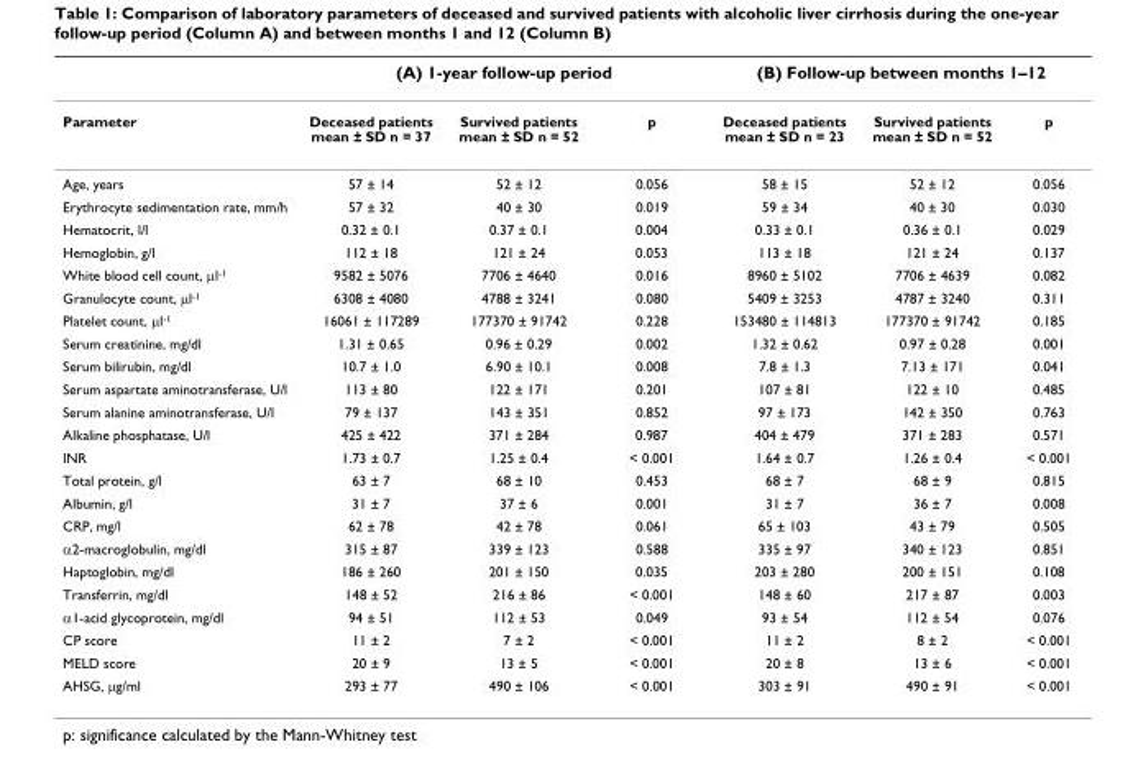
<table><thead><tr><td rowspan="2">Parameter</td><td colspan="3">(A) 1-year follow-up period</td><td colspan="3">(B) Follow-up between months 1–12</td></tr><tr><td>Deceased patients mean ± SD n = 37</td><td>Survived patients mean ± SD n = 52</td><td>p</td><td>Deceased patients mean ± SD n = 23</td><td>Survived patients mean ± SD n = 52</td><td>p</td></tr></thead><tbody><tr><td>Age, years</td><td>57 ± 14</td><td>52 ± 12</td><td>0.056</td><td>58 ± 15</td><td>52 ± 12</td><td>0.056</td></tr><tr><td>Erythrocyte sedimentation rate, mm/h</td><td>57 ± 32</td><td>40 ± 30</td><td>0.019</td><td>59 ± 34</td><td>40 ± 30</td><td>0.030</td></tr><tr><td>Hematocrit, l/l</td><td>0.32 ± 0.1</td><td>0.37 ± 0.1</td><td>0.004</td><td>0.33 ± 0.1</td><td>0.36 ± 0.1</td><td>0.029</td></tr><tr><td>Hemoglobin, g/l</td><td>112 ± 18</td><td>121 ± 24</td><td>0.053</td><td>113 ± 18</td><td>121 ± 24</td><td>0.137</td></tr><tr><td>White blood cell count, μl-1</td><td>9582 ± 5076</td><td>7706 ± 4640</td><td>0.016</td><td>8960 ± 5102</td><td>7706 ± 4639</td><td>0.082</td></tr><tr><td>Granulocyte count, μl-1</td><td>6308 ± 4080</td><td>4788 ± 3241</td><td>0.080</td><td>5409 ± 3253</td><td>4787 ± 3240</td><td>0.311</td></tr><tr><td>Platelet count, μl-1</td><td>16061 ± 117289</td><td>177370 ± 91742</td><td>0.228</td><td>153480 ± 114813</td><td>177370 ± 91742</td><td>0.185</td></tr><tr><td>Serum creatinine, mg/dl</td><td>1.31 ± 0.65</td><td>0.96 ± 0.29</td><td>0.002</td><td>1.32 ± 0.62</td><td>0.97 ± 0.28</td><td>0.001</td></tr><tr><td>Serum bilirubin, mg/dl</td><td>10.7 ± 1.0</td><td>6.90 ± 10.1</td><td>0.008</td><td>7.8 ± 1.3</td><td>7.13 ± 171</td><td>0.041</td></tr><tr><td>Serum aspartate aminotransferase, U/l</td><td>113 ± 80</td><td>122 ± 171</td><td>0.201</td><td>107 ± 81</td><td>122 ± 10</td><td>0.485</td></tr><tr><td>Serum alanine aminotransferase, U/l</td><td>79 ± 137</td><td>143 ± 351</td><td>0.852</td><td>97 ± 173</td><td>142 ± 350</td><td>0.763</td></tr><tr><td>Alkaline phosphatase, U/l</td><td>425 ± 422</td><td>371 ± 284</td><td>0.987</td><td>404 ± 479</td><td>371 ± 283</td><td>0.571</td></tr><tr><td>INR</td><td>1.73 ± 0.7</td><td>1.25 ± 0.4</td><td>&lt; 0.001</td><td>1.64 ± 0.7</td><td>1.26 ± 0.4</td><td>&lt; 0.001</td></tr><tr><td>Total protein, g/l</td><td>63 ± 7</td><td>68 ± 10</td><td>0.453</td><td>68 ± 7</td><td>68 ± 9</td><td>0.815</td></tr><tr><td>Albumin, g/l</td><td>31 ± 7</td><td>37 ± 6</td><td>0.001</td><td>31 ± 7</td><td>36 ± 7</td><td>0.008</td></tr><tr><td>CRP, mg/l</td><td>62 ± 78</td><td>42 ± 78</td><td>0.061</td><td>65 ± 103</td><td>43 ± 79</td><td>0.505</td></tr><tr><td>α2-macroglobulin, mg/dl</td><td>315 ± 87</td><td>339 ± 123</td><td>0.588</td><td>335 ± 97</td><td>340 ± 123</td><td>0.851</td></tr><tr><td>Haptoglobin, mg/dl</td><td>186 ± 260</td><td>201 ± 150</td><td>0.035</td><td>203 ± 280</td><td>200 ± 151</td><td>0.108</td></tr><tr><td>Transferrin, mg/dl</td><td>148 ± 52</td><td>216 ± 86</td><td>&lt; 0.001</td><td>148 ± 60</td><td>217 ± 87</td><td>0.003</td></tr><tr><td>α1-acid glycoprotein, mg/dl</td><td>94 ± 51</td><td>112 ± 53</td><td>0.049</td><td>93 ± 54</td><td>112 ± 54</td><td>0.076</td></tr><tr><td>CP score</td><td>11 ± 2</td><td>7 ± 2</td><td>&lt; 0.001</td><td>11 ± 2</td><td>8 ± 2</td><td>&lt; 0.001</td></tr><tr><td>MELD score</td><td>20 ± 9</td><td>13 ± 5</td><td>&lt; 0.001</td><td>20 ± 8</td><td>13 ± 6</td><td>&lt; 0.001</td></tr><tr><td>AHSG, μg/ml</td><td>293 ± 77</td><td>490 ± 106</td><td>&lt; 0.001</td><td>303 ± 91</td><td>490 ± 91</td><td>&lt; 0.001</td></tr></tbody></table>